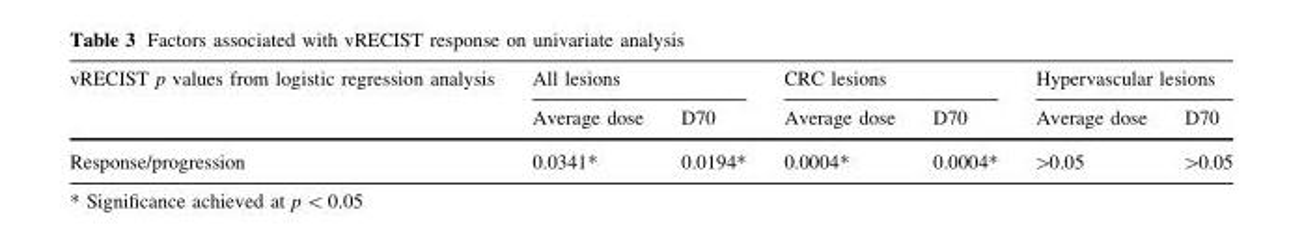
<table><thead><tr><td rowspan="2">vRECIST p values from logistic regression analysis</td><td colspan="2">All lesions</td><td colspan="2">CRC lesions</td><td colspan="2">Hypervascular lesions</td></tr><tr><td>Average dose</td><td>D70</td><td>Average dose</td><td>D70</td><td>Average dose</td><td>D70</td></tr></thead><tbody><tr><td>Response/progression</td><td>0.0341*</td><td>0.0194*</td><td>0.0004*</td><td>0.0004*</td><td>&gt;0.05</td><td>&gt;0.05</td></tr></tbody></table>